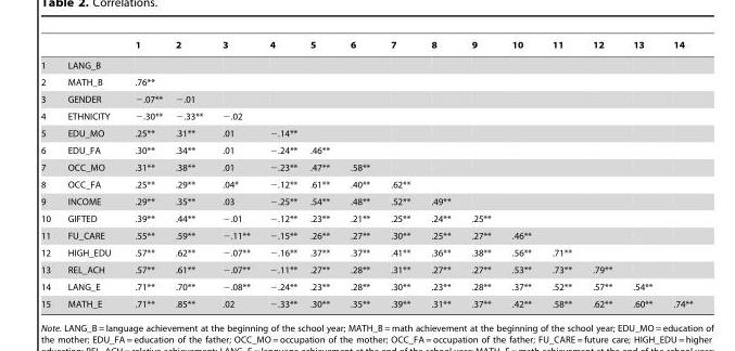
<table><thead><tr><td></td><td></td><td>1</td><td>2</td><td>3</td><td>4</td><td>5</td><td>6</td><td>7</td><td>8</td><td>9</td><td>10</td><td>11</td><td>12</td><td>13</td><td>14</td></tr></thead><tbody><tr><td>1</td><td>LANG_B</td><td></td><td></td><td></td><td></td><td></td><td></td><td></td><td></td><td></td><td></td><td></td><td></td><td></td><td></td></tr><tr><td>2</td><td>MATH_B</td><td>.76**</td><td></td><td></td><td></td><td></td><td></td><td></td><td></td><td></td><td></td><td></td><td></td><td></td><td></td></tr><tr><td>3</td><td>GENDER</td><td>−.07**</td><td>−.01</td><td></td><td></td><td></td><td></td><td></td><td></td><td></td><td></td><td></td><td></td><td></td><td></td></tr><tr><td>4</td><td>ETHNICITY</td><td>−.30**</td><td>−.33**</td><td>−.02</td><td></td><td></td><td></td><td></td><td></td><td></td><td></td><td></td><td></td><td></td><td></td></tr><tr><td>5</td><td>EDU_MO</td><td>.25**</td><td>.31**</td><td>.01</td><td>−.14**</td><td></td><td></td><td></td><td></td><td></td><td></td><td></td><td></td><td></td><td></td></tr><tr><td>6</td><td>EDU_FA</td><td>.30**</td><td>.34**</td><td>.01</td><td>−.24**</td><td>.46**</td><td></td><td></td><td></td><td></td><td></td><td></td><td></td><td></td><td></td></tr><tr><td>7</td><td>OCC_MO</td><td>.31**</td><td>.38**</td><td>.01</td><td>−.23**</td><td>.47**</td><td>.58**</td><td></td><td></td><td></td><td></td><td></td><td></td><td></td><td></td></tr><tr><td>8</td><td>OCC_FA</td><td>.25**</td><td>.29**</td><td>.04*</td><td>−.12**</td><td>.61**</td><td>.40**</td><td>.62**</td><td></td><td></td><td></td><td></td><td></td><td></td><td></td></tr><tr><td>9</td><td>INCOME</td><td>.29**</td><td>.35**</td><td>.03</td><td>−.25**</td><td>.54**</td><td>.48**</td><td>.52**</td><td>.49**</td><td></td><td></td><td></td><td></td><td></td><td></td></tr><tr><td>10</td><td>GIFTED</td><td>.39**</td><td>.44**</td><td>−.01</td><td>−.12**</td><td>.23**</td><td>.21**</td><td>.25**</td><td>.24**</td><td>.25**</td><td></td><td></td><td></td><td></td><td></td></tr><tr><td>11</td><td>FU_CARE</td><td>.55**</td><td>.59**</td><td>−.11**</td><td>−.15**</td><td>.26**</td><td>.27**</td><td>.30**</td><td>.25**</td><td>.27**</td><td>.46**</td><td></td><td></td><td></td><td></td></tr><tr><td>12</td><td>HIGH_EDU</td><td>.57**</td><td>.62**</td><td>−.07**</td><td>−.16**</td><td>.37**</td><td>.37**</td><td>.41**</td><td>.36**</td><td>.38**</td><td>.56**</td><td>.71**</td><td></td><td></td><td></td></tr><tr><td>13</td><td>REL_ACH</td><td>.57**</td><td>.61**</td><td>−.07**</td><td>−.11**</td><td>.27**</td><td>.28**</td><td>.31**</td><td>.27**</td><td>.27**</td><td>.53**</td><td>.73**</td><td>.79**</td><td></td><td></td></tr><tr><td>14</td><td>LANG_E</td><td>.71**</td><td>.70**</td><td>−.08**</td><td>−.24**</td><td>.23**</td><td>.28**</td><td>.30**</td><td>.23**</td><td>.28**</td><td>.37**</td><td>.52**</td><td>.57**</td><td>.54**</td><td></td></tr><tr><td>15</td><td>MATH_E</td><td>.71**</td><td>.85**</td><td>.02</td><td>−.33**</td><td>.30**</td><td>.35**</td><td>.39**</td><td>.31**</td><td>.37**</td><td>.42**</td><td>.58**</td><td>.62**</td><td>.60**</td><td>.74**</td></tr></tbody></table>